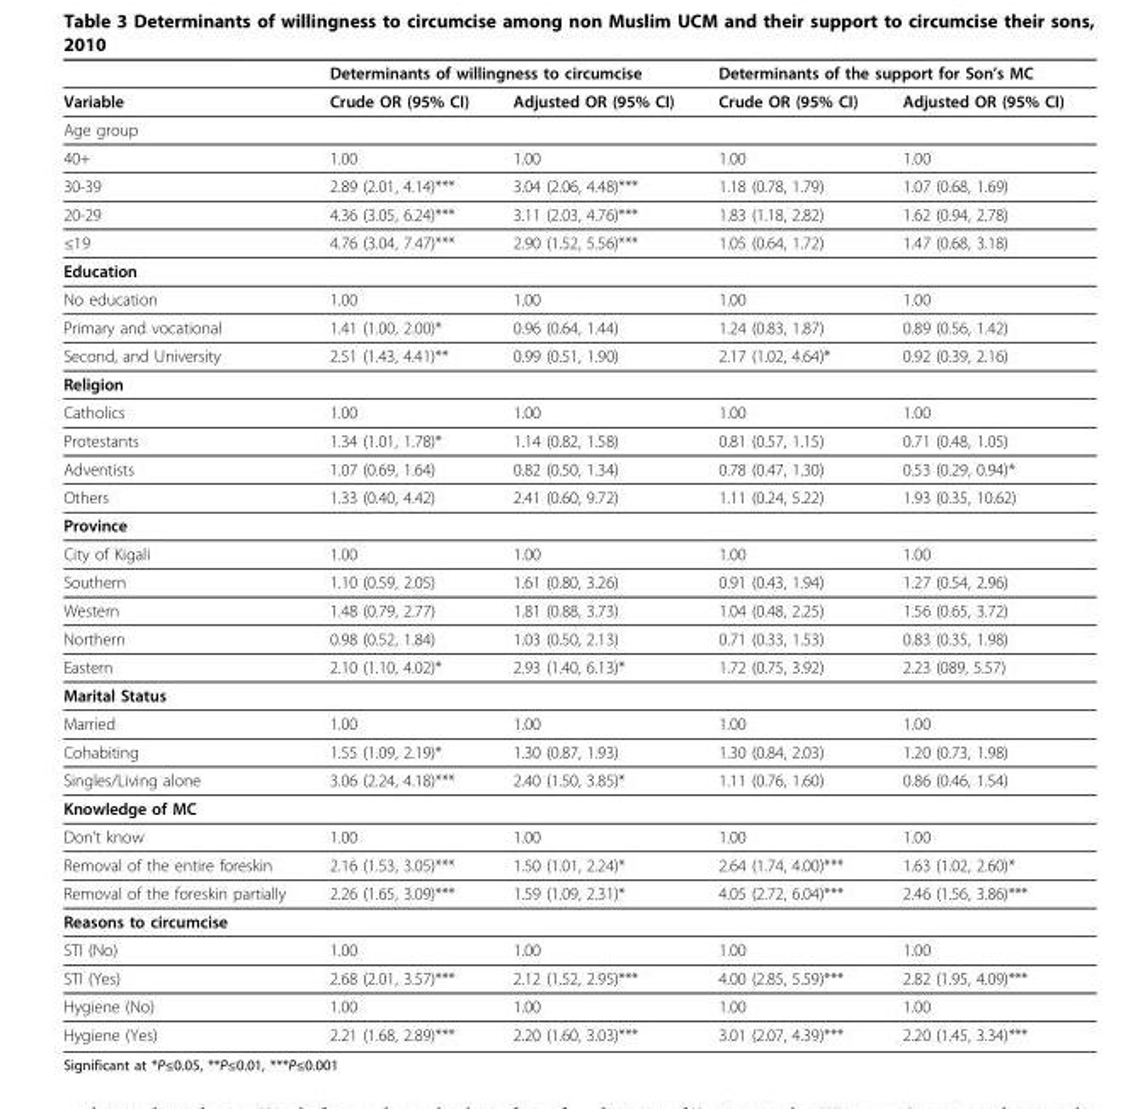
<table><thead><tr><td rowspan="2">Variable</td><td colspan="2">Determinants of willingness to circumcise</td><td colspan="2">Determinants of the support for Son’s MC</td></tr><tr><td>Crude OR (95% CI)</td><td>Adjusted OR (95% CI)</td><td>Crude OR (95% CI)</td><td>Adjusted OR (95% CI)</td></tr></thead><tbody><tr><td colspan="5">Age group</td></tr><tr><td>40+</td><td>1.00</td><td>1.00</td><td>1.00</td><td>1.00</td></tr><tr><td>30-39</td><td>2.89 (2.01, 4.14)***</td><td>3.04 (2.06, 4.48)***</td><td>1.18 (0.78, 1.79)</td><td>1.07 (0.68, 1.69)</td></tr><tr><td>20-29</td><td>4.36 (3.05, 6.24)***</td><td>3.11 (2.03, 4.76)***</td><td>1.83 (1.18, 2.82)</td><td>1.62 (0.94, 2.78)</td></tr><tr><td>≤19</td><td>4.76 (3.04, 7.47)***</td><td>2.90 (1.52, 5.56)***</td><td>1.05 (0.64, 1.72)</td><td>1.47 (0.68, 3.18)</td></tr><tr><td colspan="5">Education</td></tr><tr><td>No education</td><td>1.00</td><td>1.00</td><td>1.00</td><td>1.00</td></tr><tr><td>Primary and vocational</td><td>1.41 (1.00, 2.00)*</td><td>0.96 (0.64, 1.44)</td><td>1.24 (0.83, 1.87)</td><td>0.89 (0.56, 1.42)</td></tr><tr><td>Second, and University</td><td>2.51 (1.43, 4.41)**</td><td>0.99 (0.51, 1.90)</td><td>2.17 (1.02, 4.64)*</td><td>0.92 (0.39, 2.16)</td></tr><tr><td colspan="5">Religion</td></tr><tr><td>Catholics</td><td>1.00</td><td>1.00</td><td>1.00</td><td>1.00</td></tr><tr><td>Protestants</td><td>1.34 (1.01, 1.78)*</td><td>1.14 (0.82, 1.58)</td><td>0.81 (0.57, 1.15)</td><td>0.71 (0.48, 1.05)</td></tr><tr><td>Adventists</td><td>1.07 (0.69, 1.64)</td><td>0.82 (0.50, 1.34)</td><td>0.78 (0.47, 1.30)</td><td>0.53 (0.29, 0.94)*</td></tr><tr><td>Others</td><td>1.33 (0.40, 4.42)</td><td>2.41 (0.60, 9.72)</td><td>1.11 (0.24, 5.22)</td><td>1.93 (0.35, 10.62)</td></tr><tr><td colspan="5">Province</td></tr><tr><td>City of Kigali</td><td>1.00</td><td>1.00</td><td>1.00</td><td>1.00</td></tr><tr><td>Southern</td><td>1.10 (0.59, 2.05)</td><td>1.61 (0.80, 3.26)</td><td>0.91 (0.43, 1.94)</td><td>1.27 (0.54, 2.96)</td></tr><tr><td>Western</td><td>1.48 (0.79, 2.77)</td><td>1.81 (0.88, 3.73)</td><td>1.04 (0.48, 2.25)</td><td>1.56 (0.65, 3.72)</td></tr><tr><td>Northern</td><td>0.98 (0.52, 1.84)</td><td>1.03 (0.50, 2.13)</td><td>0.71 (0.33, 1.53)</td><td>0.83 (0.35, 1.98)</td></tr><tr><td>Eastern</td><td>2.10 (1.10, 4.02)*</td><td>2.93 (1.40, 6.13)*</td><td>1.72 (0.75, 3.92)</td><td>2.23 (089, 5.57)</td></tr><tr><td colspan="5">Marital Status</td></tr><tr><td>Married</td><td>1.00</td><td>1.00</td><td>1.00</td><td>1.00</td></tr><tr><td>Cohabiting</td><td>1.55 (1.09, 2.19)*</td><td>1.30 (0.87, 1.93)</td><td>1.30 (0.84, 2.03)</td><td>1.20 (0.73, 1.98)</td></tr><tr><td>Singles/Living alone</td><td>3.06 (2.24, 4.18)***</td><td>2.40 (1.50, 3.85)*</td><td>1.11 (0.76, 1.60)</td><td>0.86 (0.46, 1.54)</td></tr><tr><td colspan="5">Knowledge of MC</td></tr><tr><td>Don’t know</td><td>1.00</td><td>1.00</td><td>1.00</td><td>1.00</td></tr><tr><td>Removal of the entire foreskin</td><td>2.16 (1.53, 3.05)***</td><td>1.50 (1.01, 2.24)*</td><td>2.64 (1.74, 4.00)***</td><td>1.63 (1.02, 2.60)*</td></tr><tr><td>Removal of the foreskin partially</td><td>2.26 (1.65, 3.09)***</td><td>1.59 (1.09, 2.31)*</td><td>4.05 (2.72, 6.04)***</td><td>2.46 (1.56, 3.86)***</td></tr><tr><td colspan="5">Reasons to circumcise</td></tr><tr><td>STI (No)</td><td>1.00</td><td>1.00</td><td>1.00</td><td>1.00</td></tr><tr><td>STI (Yes)</td><td>2.68 (2.01, 3.57)***</td><td>2.12 (1.52, 2.95)***</td><td>4.00 (2.85, 5.59)***</td><td>2.82 (1.95, 4.09)***</td></tr><tr><td>Hygiene (No)</td><td>1.00</td><td>1.00</td><td>1.00</td><td>1.00</td></tr><tr><td>Hygiene (Yes)</td><td>2.21 (1.68, 2.89)***</td><td>2.20 (1.60, 3.03)***</td><td>3.01 (2.07, 4.39)***</td><td>2.20 (1.45, 3.34)***</td></tr></tbody></table>